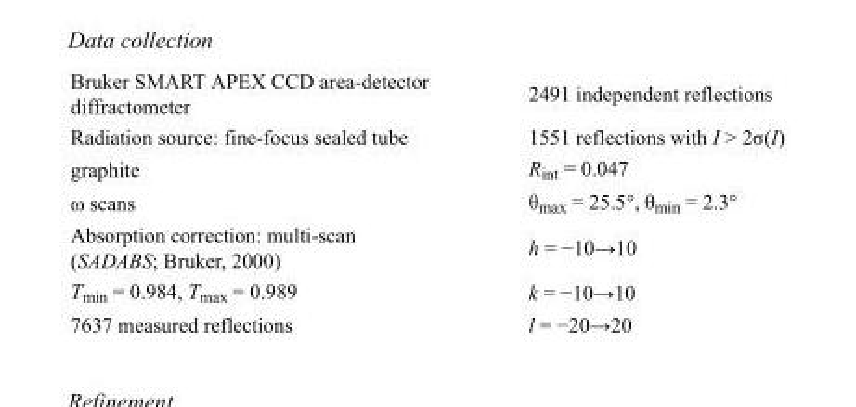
<table><tbody><tr><td>Bruker SMART APEX CCD area-detector diffractometer</td><td>2491 independent reflections</td></tr><tr><td>Radiation source: fine-focus sealed tube</td><td>1551 reflections with I &gt; 2σ(I)</td></tr><tr><td>graphite</td><td>R<sub>int</sub> = 0.047</td></tr><tr><td>ω scans</td><td>θ<sub>max</sub> = 25.5°, θ<sub>min</sub> = 2.3°</td></tr><tr><td>Absorption correction: multi-scan (SADABS; Bruker, 2000)</td><td>h = −10→10</td></tr><tr><td>T<sub>min</sub> = 0.984, T<sub>max</sub> = 0.989</td><td>k = −10→10</td></tr><tr><td>7637 measured reflections</td><td>l = −20→20</td></tr></tbody></table>